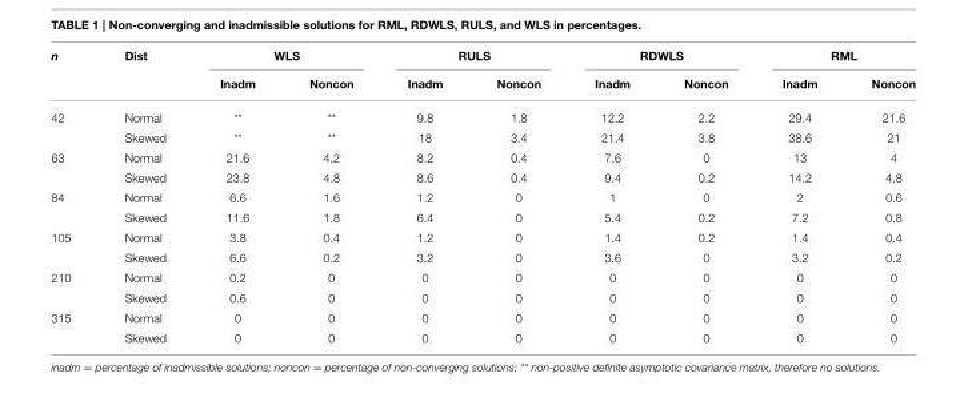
<table><thead><tr><td rowspan="2">n</td><td rowspan="2">Dist</td><td colspan="2">WLS</td><td colspan="2">RULS</td><td colspan="2">RDWLS</td><td colspan="2">RML</td></tr><tr><td>Inadm</td><td>Noncon</td><td>Inadm</td><td>Noncon</td><td>Inadm</td><td>Noncon</td><td>Inadm</td><td>Noncon</td></tr></thead><tbody><tr><td rowspan="2">42</td><td>Normal</td><td>**</td><td>**</td><td>9.8</td><td>1.8</td><td>12.2</td><td>2.2</td><td>29.4</td><td>21.6</td></tr><tr><td>Skewed</td><td>**</td><td>**</td><td>18</td><td>3.4</td><td>21.4</td><td>3.8</td><td>38.6</td><td>21</td></tr><tr><td rowspan="2">63</td><td>Normal</td><td>21.6</td><td>4.2</td><td>8.2</td><td>0.4</td><td>7.6</td><td>0</td><td>13</td><td>4</td></tr><tr><td>Skewed</td><td>23.8</td><td>4.8</td><td>8.6</td><td>0.4</td><td>9.4</td><td>0.2</td><td>14.2</td><td>4.8</td></tr><tr><td rowspan="2">84</td><td>Normal</td><td>6.6</td><td>1.6</td><td>1.2</td><td>0</td><td>1</td><td>0</td><td>2</td><td>0.6</td></tr><tr><td>Skewed</td><td>11.6</td><td>1.8</td><td>6.4</td><td>0</td><td>5.4</td><td>0.2</td><td>7.2</td><td>0.8</td></tr><tr><td rowspan="2">105</td><td>Normal</td><td>3.8</td><td>0.4</td><td>1.2</td><td>0</td><td>1.4</td><td>0.2</td><td>1.4</td><td>0.4</td></tr><tr><td>Skewed</td><td>6.6</td><td>0.2</td><td>3.2</td><td>0</td><td>3.6</td><td>0</td><td>3.2</td><td>0.2</td></tr><tr><td rowspan="2">210</td><td>Normal</td><td>0.2</td><td>0</td><td>0</td><td>0</td><td>0</td><td>0</td><td>0</td><td>0</td></tr><tr><td>Skewed</td><td>0.6</td><td>0</td><td>0</td><td>0</td><td>0</td><td>0</td><td>0</td><td>0</td></tr><tr><td rowspan="2">315</td><td>Normal</td><td>0</td><td>0</td><td>0</td><td>0</td><td>0</td><td>0</td><td>0</td><td>0</td></tr><tr><td>Skewed</td><td>0</td><td>0</td><td>0</td><td>0</td><td>0</td><td>0</td><td>0</td><td>0</td></tr></tbody></table>